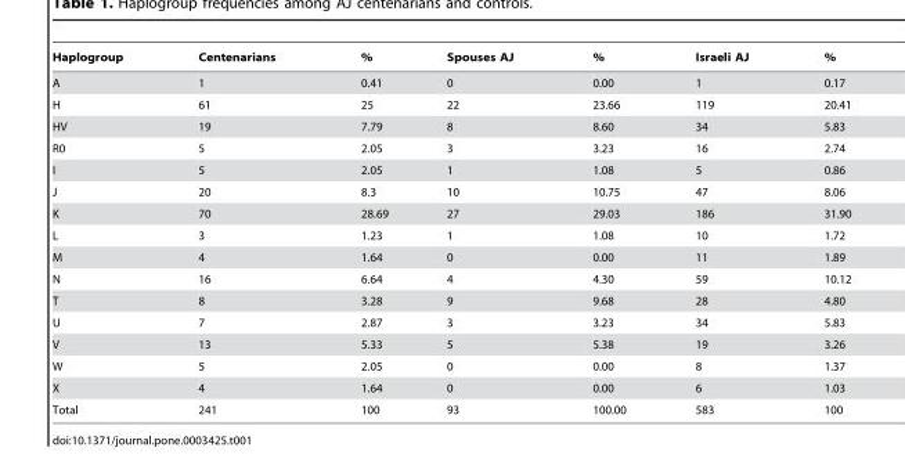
<table><thead><tr><td>Haplogroup</td><td>Centenarians</td><td>%</td><td>Spouses AJ</td><td>%</td><td>Israeli AJ</td><td>%</td></tr></thead><tbody><tr><td>A</td><td>1</td><td>0.41</td><td>0</td><td>0.00</td><td>1</td><td>0.17</td></tr><tr><td>H</td><td>61</td><td>25</td><td>22</td><td>23.66</td><td>119</td><td>20.41</td></tr><tr><td>HV</td><td>19</td><td>7.79</td><td>8</td><td>8.60</td><td>34</td><td>5.83</td></tr><tr><td>R0</td><td>5</td><td>2.05</td><td>3</td><td>3.23</td><td>16</td><td>2.74</td></tr><tr><td>I</td><td>5</td><td>2.05</td><td>1</td><td>1.08</td><td>5</td><td>0.86</td></tr><tr><td>J</td><td>20</td><td>8.3</td><td>10</td><td>10.75</td><td>47</td><td>8.06</td></tr><tr><td>K</td><td>70</td><td>28.69</td><td>27</td><td>29.03</td><td>186</td><td>31.90</td></tr><tr><td>L</td><td>3</td><td>1.23</td><td>1</td><td>1.08</td><td>10</td><td>1.72</td></tr><tr><td>M</td><td>4</td><td>1.64</td><td>0</td><td>0.00</td><td>11</td><td>1.89</td></tr><tr><td>N</td><td>16</td><td>6.64</td><td>4</td><td>4.30</td><td>59</td><td>10.12</td></tr><tr><td>T</td><td>8</td><td>3.28</td><td>9</td><td>9.68</td><td>28</td><td>4.80</td></tr><tr><td>U</td><td>7</td><td>2.87</td><td>3</td><td>3.23</td><td>34</td><td>5.83</td></tr><tr><td>V</td><td>13</td><td>5.33</td><td>5</td><td>5.38</td><td>19</td><td>3.26</td></tr><tr><td>W</td><td>5</td><td>2.05</td><td>0</td><td>0.00</td><td>8</td><td>1.37</td></tr><tr><td>X</td><td>4</td><td>1.64</td><td>0</td><td>0.00</td><td>6</td><td>1.03</td></tr><tr><td>Total</td><td>241</td><td>100</td><td>93</td><td>100.00</td><td>583</td><td>100</td></tr></tbody></table>